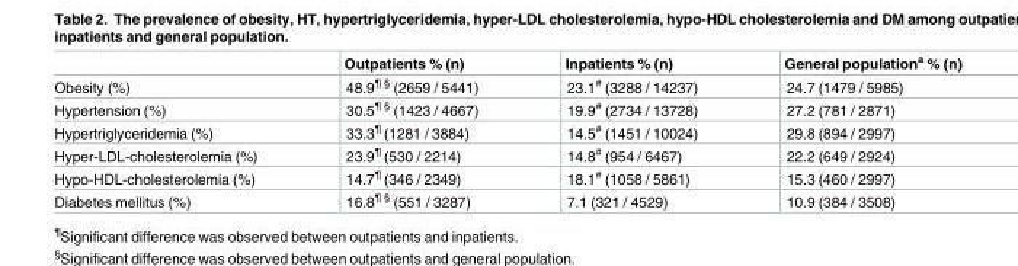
<table><thead><tr><td></td><td>Outpatients % (n)</td><td>Inpatients % (n)</td><td>General population<sup>a</sup> % (n)</td></tr></thead><tbody><tr><td>Obesity (%)</td><td>48.9<sup>¶ §</sup> (2659 / 5441)</td><td>23.1<sup>#</sup> (3288 / 14237)</td><td>24.7 (1479 / 5985)</td></tr><tr><td>Hypertension (%)</td><td>30.5<sup>¶ §</sup> (1423 / 4667)</td><td>19.9<sup>#</sup> (2734 / 13728)</td><td>27.2 (781 / 2871)</td></tr><tr><td>Hypertriglyceridemia (%)</td><td>33.3<sup>¶</sup> (1281 / 3884)</td><td>14.5<sup>#</sup> (1451 / 10024)</td><td>29.8 (894 / 2997)</td></tr><tr><td>Hyper-LDL-cholesterolemia (%)</td><td>23.9<sup>¶</sup> (530 / 2214)</td><td>14.8<sup>#</sup> (954 / 6467)</td><td>22.2 (649 / 2924)</td></tr><tr><td>Hypo-HDL-cholesterolemia (%)</td><td>14.7<sup>¶</sup> (346 / 2349)</td><td>18.1<sup>#</sup> (1058 / 5861)</td><td>15.3 (460 / 2997)</td></tr><tr><td>Diabetes mellitus (%)</td><td>16.8<sup>¶ §</sup> (551 / 3287)</td><td>7.1 (321 / 4529)</td><td>10.9 (384 / 3508)</td></tr></tbody></table>